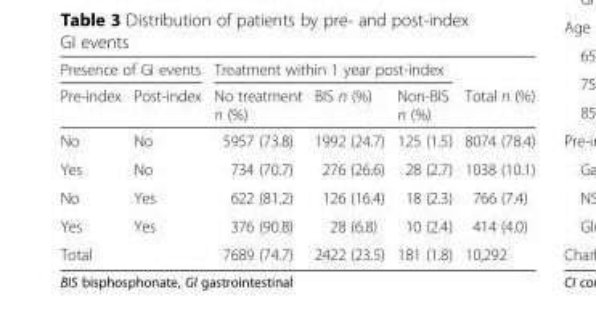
<table><thead><tr><td colspan="2">Presence of GI events</td><td colspan="3">Treatment within 1 year post-index</td><td rowspan="2">Total n (%)</td></tr><tr><td>Pre-index</td><td>Post-index</td><td>No treatment n (%)</td><td>BIS n (%)</td><td>Non-BIS n (%)</td></tr></thead><tbody><tr><td>No</td><td>No</td><td>5957 (73.8)</td><td>1992 (24.7)</td><td>125 (1.5)</td><td>8074 (78.4)</td></tr><tr><td>Yes</td><td>No</td><td>734 (70.7)</td><td>276 (26.6)</td><td>28 (2.7)</td><td>1038 (10.1)</td></tr><tr><td>No</td><td>Yes</td><td>622 (81.2)</td><td>126 (16.4)</td><td>18 (2.3)</td><td>766 (7.4)</td></tr><tr><td>Yes</td><td>Yes</td><td>376 (90.8)</td><td>28 (6.8)</td><td>10 (2.4)</td><td>414 (4.0)</td></tr><tr><td colspan="2">Total</td><td>7689 (74.7)</td><td>2422 (23.5)</td><td>181 (1.8)</td><td>10,292</td></tr></tbody></table>